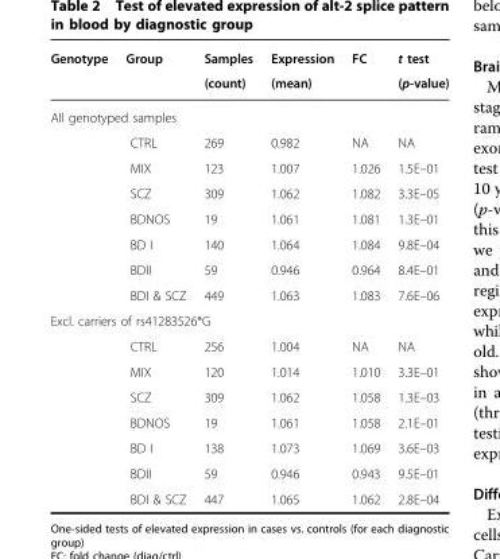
<table><thead><tr><td rowspan="2">Genotype</td><td rowspan="2">Group</td><td rowspan="2">Samples (count)</td><td rowspan="2">Expression (mean)</td><td rowspan="2">FC</td><td rowspan="2">t test (p-value)</td></tr><tr></tr></thead><tbody><tr><td colspan="6">All genotyped samples</td></tr><tr><td></td><td>CTRL</td><td>269</td><td>0.982</td><td>NA</td><td>NA</td></tr><tr><td></td><td>MIX</td><td>123</td><td>1.007</td><td>1.026</td><td>1.5E–01</td></tr><tr><td></td><td>SCZ</td><td>309</td><td>1.062</td><td>1.082</td><td>3.3E–05</td></tr><tr><td></td><td>BDNOS</td><td>19</td><td>1.061</td><td>1.081</td><td>1.3E–01</td></tr><tr><td></td><td>BD I</td><td>140</td><td>1.064</td><td>1.084</td><td>9.8E–04</td></tr><tr><td></td><td>BDII</td><td>59</td><td>0.946</td><td>0.964</td><td>8.4E–01</td></tr><tr><td></td><td>BDI &amp; SCZ</td><td>449</td><td>1.063</td><td>1.083</td><td>7.6E–06</td></tr><tr><td colspan="6">Excl. carriers of rs41283526*G</td></tr><tr><td></td><td>CTRL</td><td>256</td><td>1.004</td><td>NA</td><td>NA</td></tr><tr><td></td><td>MIX</td><td>120</td><td>1.014</td><td>1.010</td><td>3.3E–01</td></tr><tr><td></td><td>SCZ</td><td>309</td><td>1.062</td><td>1.058</td><td>1.3E–03</td></tr><tr><td></td><td>BDNOS</td><td>19</td><td>1.061</td><td>1.058</td><td>2.1E–01</td></tr><tr><td></td><td>BD I</td><td>138</td><td>1.073</td><td>1.069</td><td>3.6E–03</td></tr><tr><td></td><td>BDII</td><td>59</td><td>0.946</td><td>0.943</td><td>9.5E–01</td></tr><tr><td></td><td>BDI &amp; SCZ</td><td>447</td><td>1.065</td><td>1.062</td><td>2.8E–04</td></tr></tbody></table>